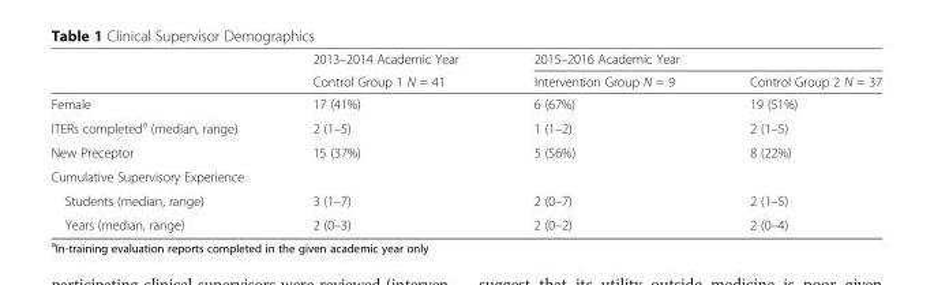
<table><thead><tr><td rowspan="2"></td><td rowspan="2">2013–2014 Academic Year Control Group 1 N = 41</td><td colspan="2">2015–2016 Academic Year</td></tr><tr><td>Intervention Group N = 9</td><td>Control Group 2 N = 37</td></tr></thead><tbody><tr><td>Female</td><td>17 (41%)</td><td>6 (67%)</td><td>19 (51%)</td></tr><tr><td>ITERs completed<sup>a</sup> (median, range)</td><td>2 (1–5)</td><td>1 (1–2)</td><td>2 (1–5)</td></tr><tr><td>New Preceptor</td><td>15 (37%)</td><td>5 (56%)</td><td>8 (22%)</td></tr><tr><td colspan="4">Cumulative Supervisory Experience</td></tr><tr><td>Students (median, range)</td><td>3 (1–7)</td><td>2 (0–7)</td><td>2 (1–5)</td></tr><tr><td>Years (median, range)</td><td>2 (0–3)</td><td>2 (0–2)</td><td>2 (0–4)</td></tr></tbody></table>